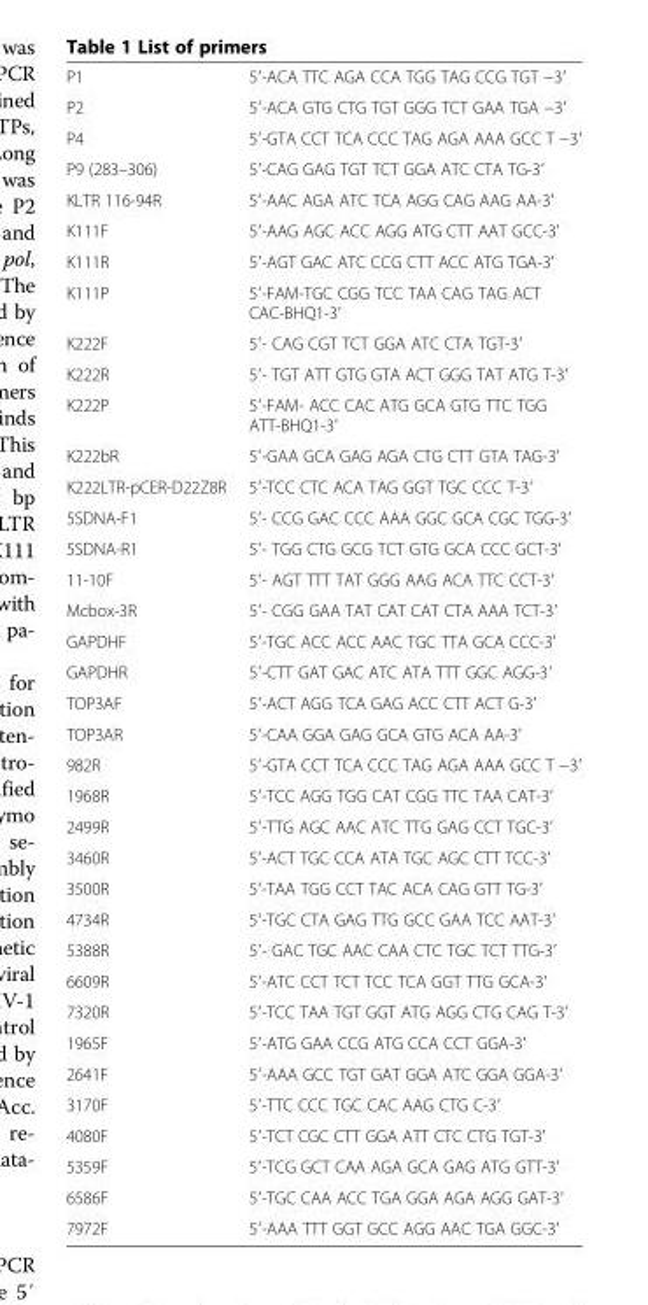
<table><tbody><tr><td>P1</td><td>5′-ACA TTC AGA CCA TGG TAG CCG TGT −3′</td></tr><tr><td>P2</td><td>5′-ACA GTG CTG TGT GGG TCT GAA TGA −3′</td></tr><tr><td>P4</td><td>5′-GTA CCT TCA CCC TAG AGA AAA GCC T −3′</td></tr><tr><td>P9 (283–306)</td><td>5′-CAG GAG TGT TCT GGA ATC CTA TG-3′</td></tr><tr><td>KLTR 116-94R</td><td>5′-AAC AGA ATC TCA AGG CAG AAG AA-3′</td></tr><tr><td>K111F</td><td>5′-AAG AGC ACC AGG ATG CTT AAT GCC-3′</td></tr><tr><td>K111R</td><td>5′-AGT GAC ATC CCG CTT ACC ATG TGA-3′</td></tr><tr><td>K111P</td><td>5′-FAM-TGC CGG TCC TAA CAG TAG ACT CAC-BHQ1-3′</td></tr><tr><td>K222F</td><td>5′- CAG CGT TCT GGA ATC CTA TGT-3′</td></tr><tr><td>K222R</td><td>5′- TGT ATT GTG GTA ACT GGG TAT ATG T-3′</td></tr><tr><td>K222P</td><td>5′-FAM- ACC CAC ATG GCA GTG TTC TGG ATT-BHQ1-3′</td></tr><tr><td>K222bR</td><td>5′-GAA GCA GAG AGA CTG CTT GTA TAG-3′</td></tr><tr><td>K222LTR-pCER-D22Z8R</td><td>5′-TCC CTC ACA TAG GGT TGC CCC T-3′</td></tr><tr><td>5SDNA-F1</td><td>5′- CCG GAC CCC AAA GGC GCA CGC TGG-3′</td></tr><tr><td>5SDNA-R1</td><td>5′- TGG CTG GCG TCT GTG GCA CCC GCT-3′</td></tr><tr><td>11-10F</td><td>5′- AGT TTT TAT GGG AAG ACA TTC CCT-3′</td></tr><tr><td>Mcbox-3R</td><td>5′- CGG GAA TAT CAT CAT CTA AAA TCT-3′</td></tr><tr><td>GAPDHF</td><td>5′-TGC ACC ACC AAC TGC TTA GCA CCC-3′</td></tr><tr><td>GAPDHR</td><td>5′-CTT GAT GAC ATC ATA TTT GGC AGG-3′</td></tr><tr><td>TOP3AF</td><td>5′-ACT AGG TCA GAG ACC CTT ACT G-3′</td></tr><tr><td>TOP3AR</td><td>5′-CAA GGA GAG GCA GTG ACA AA-3′</td></tr><tr><td>982R</td><td>5′-GTA CCT TCA CCC TAG AGA AAA GCC T −3′</td></tr><tr><td>1968R</td><td>5′-TCC AGG TGG CAT CGG TTC TAA CAT-3′</td></tr><tr><td>2499R</td><td>5′-TTG AGC AAC ATC TTG GAG CCT TGC-3′</td></tr><tr><td>3460R</td><td>5′-ACT TGC CCA ATA TGC AGC CTT TCC-3′</td></tr><tr><td>3500R</td><td>5′-TAA TGG CCT TAC ACA CAG GTT TG-3′</td></tr><tr><td>4734R</td><td>5′-TGC CTA GAG TTG GCC GAA TCC AAT-3′</td></tr><tr><td>5388R</td><td>5′- GAC TGC AAC CAA CTC TGC TCT TTG-3′</td></tr><tr><td>6609R</td><td>5′-ATC CCT TCT TCC TCA GGT TTG GCA-3′</td></tr><tr><td>7320R</td><td>5′-TCC TAA TGT GGT ATG AGG CTG CAG T-3′</td></tr><tr><td>1965F</td><td>5′-ATG GAA CCG ATG CCA CCT GGA-3′</td></tr><tr><td>2641F</td><td>5′-AAA GCC TGT GAT GGA ATC GGA GGA-3′</td></tr><tr><td>3170F</td><td>5′-TTC CCC TGC CAC AAG CTG C-3′</td></tr><tr><td>4080F</td><td>5′-TCT CGC CTT GGA ATT CTC CTG TGT-3′</td></tr><tr><td>5359F</td><td>5′-TCG GCT CAA AGA GCA GAG ATG GTT-3′</td></tr><tr><td>6586F</td><td>5′-TGC CAA ACC TGA GGA AGA AGG GAT-3′</td></tr><tr><td>7972F</td><td>5′-AAA TTT GGT GCC AGG AAC TGA GGC-3′</td></tr></tbody></table>